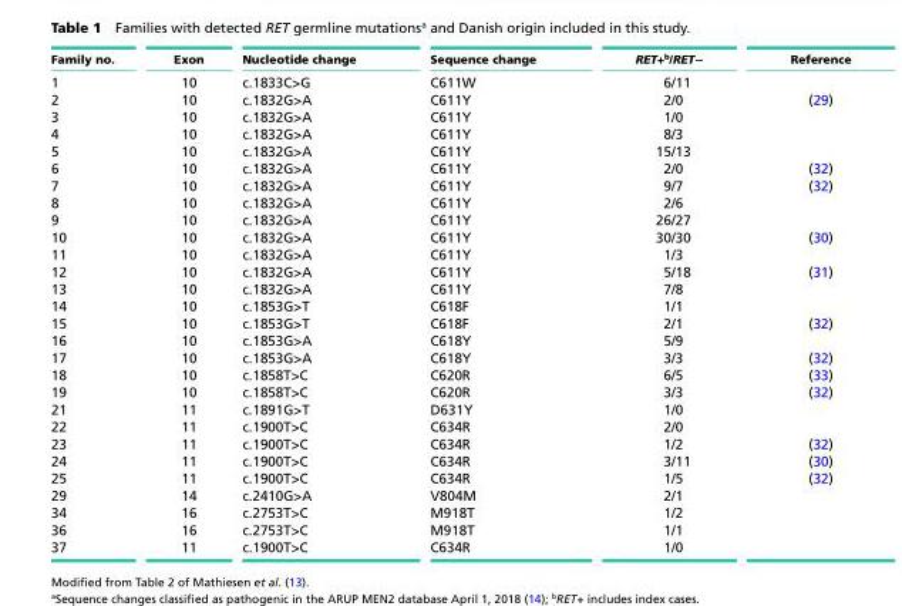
<table><thead><tr><td>Family no.</td><td>Exon</td><td>Nucleotide change</td><td>Sequence change</td><td>RET+<sup>b</sup>/RET−</td><td>Reference</td></tr></thead><tbody><tr><td>1</td><td>10</td><td>c.1833C&gt;G</td><td>C611W</td><td>6/11</td><td></td></tr><tr><td>2</td><td>10</td><td>c.1832G&gt;A</td><td>C611Y</td><td>2/0</td><td>(29)</td></tr><tr><td>3</td><td>10</td><td>c.1832G&gt;A</td><td>C611Y</td><td>1/0</td><td></td></tr><tr><td>4</td><td>10</td><td>c.1832G&gt;A</td><td>C611Y</td><td>8/3</td><td></td></tr><tr><td>5</td><td>10</td><td>c.1832G&gt;A</td><td>C611Y</td><td>15/13</td><td></td></tr><tr><td>6</td><td>10</td><td>c.1832G&gt;A</td><td>C611Y</td><td>2/0</td><td>(32)</td></tr><tr><td>7</td><td>10</td><td>c.1832G&gt;A</td><td>C611Y</td><td>9/7</td><td>(32)</td></tr><tr><td>8</td><td>10</td><td>c.1832G&gt;A</td><td>C611Y</td><td>2/6</td><td></td></tr><tr><td>9</td><td>10</td><td>c.1832G&gt;A</td><td>C611Y</td><td>26/27</td><td></td></tr><tr><td>10</td><td>10</td><td>c.1832G&gt;A</td><td>C611Y</td><td>30/30</td><td>(30)</td></tr><tr><td>11</td><td>10</td><td>c.1832G&gt;A</td><td>C611Y</td><td>1/3</td><td></td></tr><tr><td>12</td><td>10</td><td>c.1832G&gt;A</td><td>C611Y</td><td>5/18</td><td>(31)</td></tr><tr><td>13</td><td>10</td><td>c.1832G&gt;A</td><td>C611Y</td><td>7/8</td><td></td></tr><tr><td>14</td><td>10</td><td>c.1853G&gt;T</td><td>C618F</td><td>1/1</td><td></td></tr><tr><td>15</td><td>10</td><td>c.1853G&gt;T</td><td>C618F</td><td>2/1</td><td>(32)</td></tr><tr><td>16</td><td>10</td><td>c.1853G&gt;A</td><td>C618Y</td><td>5/9</td><td></td></tr><tr><td>17</td><td>10</td><td>c.1853G&gt;A</td><td>C618Y</td><td>3/3</td><td>(32)</td></tr><tr><td>18</td><td>10</td><td>c.1858T&gt;C</td><td>C620R</td><td>6/5</td><td>(33)</td></tr><tr><td>19</td><td>10</td><td>c.1858T&gt;C</td><td>C620R</td><td>3/3</td><td>(32)</td></tr><tr><td>21</td><td>11</td><td>c.1891G&gt;T</td><td>D631Y</td><td>1/0</td><td></td></tr><tr><td>22</td><td>11</td><td>c.1900T&gt;C</td><td>C634R</td><td>2/0</td><td></td></tr><tr><td>23</td><td>11</td><td>c.1900T&gt;C</td><td>C634R</td><td>1/2</td><td>(32)</td></tr><tr><td>24</td><td>11</td><td>c.1900T&gt;C</td><td>C634R</td><td>3/11</td><td>(30)</td></tr><tr><td>25</td><td>11</td><td>c.1900T&gt;C</td><td>C634R</td><td>1/5</td><td>(32)</td></tr><tr><td>29</td><td>14</td><td>c.2410G&gt;A</td><td>V804M</td><td>2/1</td><td></td></tr><tr><td>34</td><td>16</td><td>c.2753T&gt;C</td><td>M918T</td><td>1/2</td><td></td></tr><tr><td>36</td><td>16</td><td>c.2753T&gt;C</td><td>M918T</td><td>1/1</td><td></td></tr><tr><td>37</td><td>11</td><td>c.1900T&gt;C</td><td>C634R</td><td>1/0</td><td></td></tr></tbody></table>